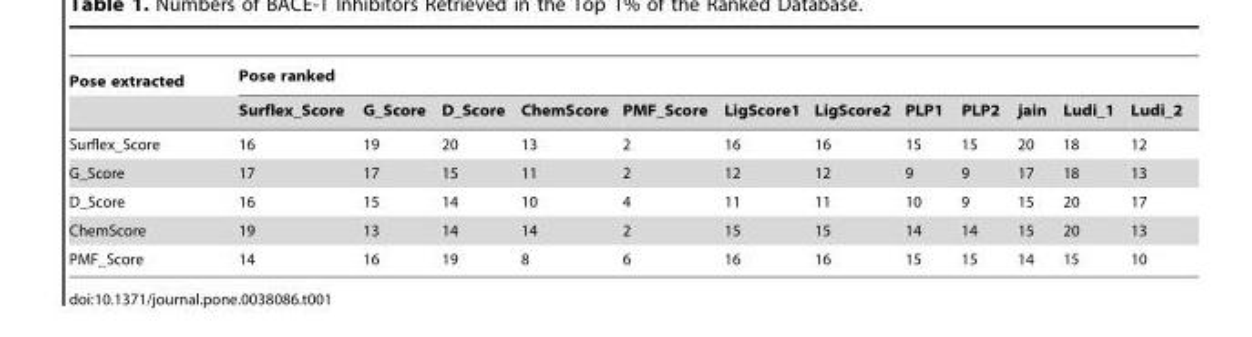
<table><thead><tr><td rowspan="2">Pose extracted</td><td colspan="12">Pose ranked</td></tr><tr><td>Surflex_Score</td><td>G_Score</td><td>D_Score</td><td>ChemScore</td><td>PMF_Score</td><td>LigScore1</td><td>LigScore2</td><td>PLP1</td><td>PLP2</td><td>jain</td><td>Ludi_1</td><td>Ludi_2</td></tr></thead><tbody><tr><td>Surflex_Score</td><td>16</td><td>19</td><td>20</td><td>13</td><td>2</td><td>16</td><td>16</td><td>15</td><td>15</td><td>20</td><td>18</td><td>12</td></tr><tr><td>G_Score</td><td>17</td><td>17</td><td>15</td><td>11</td><td>2</td><td>12</td><td>12</td><td>9</td><td>9</td><td>17</td><td>18</td><td>13</td></tr><tr><td>D_Score</td><td>16</td><td>15</td><td>14</td><td>10</td><td>4</td><td>11</td><td>11</td><td>10</td><td>9</td><td>15</td><td>20</td><td>17</td></tr><tr><td>ChemScore</td><td>19</td><td>13</td><td>14</td><td>14</td><td>2</td><td>15</td><td>15</td><td>14</td><td>14</td><td>15</td><td>20</td><td>13</td></tr><tr><td>PMF_Score</td><td>14</td><td>16</td><td>19</td><td>8</td><td>6</td><td>16</td><td>16</td><td>15</td><td>15</td><td>14</td><td>15</td><td>10</td></tr></tbody></table>